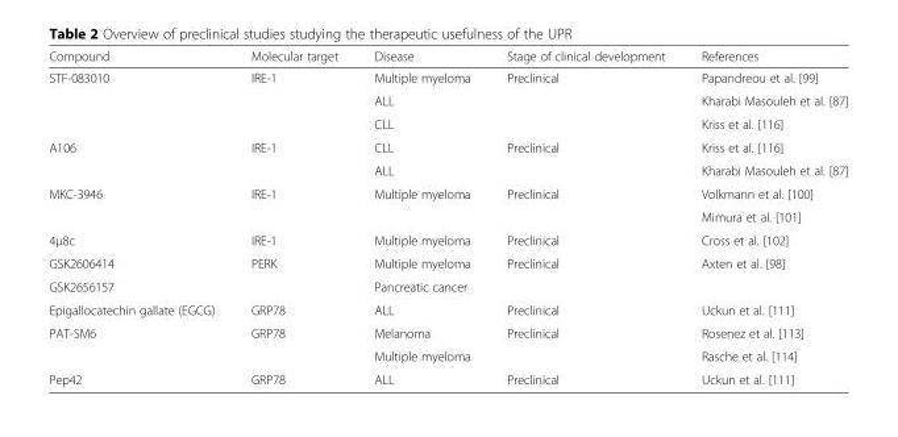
<table><thead><tr><td>Compound</td><td>Molecular target</td><td>Disease</td><td>Stage of clinical development</td><td>References</td></tr></thead><tbody><tr><td rowspan="3">STF-083010</td><td rowspan="3">IRE-1</td><td>Multiple myeloma</td><td rowspan="3">Preclinical</td><td>Papandreou et al. [99]</td></tr><tr><td>ALL</td><td>Kharabi Masouleh et al. [87]</td></tr><tr><td>CLL</td><td>Kriss et al. [116]</td></tr><tr><td rowspan="2">A106</td><td rowspan="2">IRE-1</td><td>CLL</td><td rowspan="2">Preclinical</td><td>Kriss et al. [116]</td></tr><tr><td>ALL</td><td>Kharabi Masouleh et al. [87]</td></tr><tr><td rowspan="2">MKC-3946</td><td rowspan="2">IRE-1</td><td rowspan="2">Multiple myeloma</td><td rowspan="2">Preclinical</td><td>Volkmann et al. [100]</td></tr><tr><td>Mimura et al. [101]</td></tr><tr><td>4μ8c</td><td>IRE-1</td><td>Multiple myeloma</td><td>Preclinical</td><td>Cross et al. [102]</td></tr><tr><td>GSK2606414</td><td rowspan="2">PERK</td><td>Multiple myeloma</td><td rowspan="2">Preclinical</td><td rowspan="2">Axten et al. [98]</td></tr><tr><td>GSK2656157</td><td>Pancreatic cancer</td></tr><tr><td>Epigallocatechin gallate (EGCG)</td><td>GRP78</td><td>ALL</td><td>Preclinical</td><td>Uckun et al. [111]</td></tr><tr><td rowspan="2">PAT-SM6</td><td rowspan="2">GRP78</td><td>Melanoma</td><td rowspan="2">Preclinical</td><td>Rosenez et al. [113]</td></tr><tr><td>Multiple myeloma</td><td>Rasche et al. [114]</td></tr><tr><td>Pep42</td><td>GRP78</td><td>ALL</td><td>Preclinical</td><td>Uckun et al. [111]</td></tr></tbody></table>